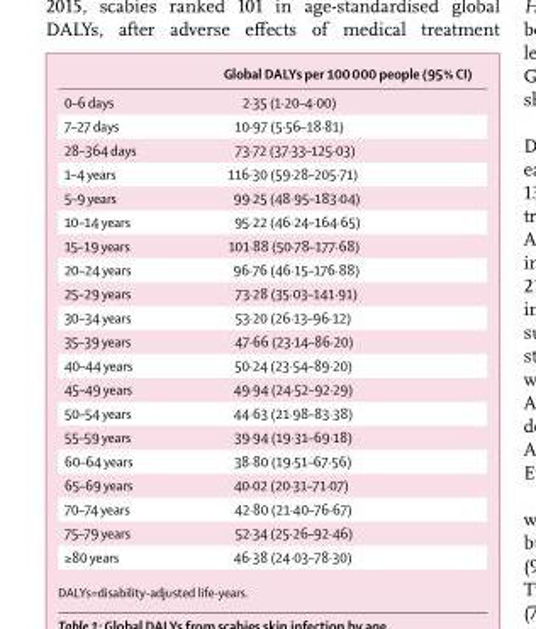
<table><thead><tr><td></td><td>Global DALYs per 100 000 people (95% CI)</td></tr></thead><tbody><tr><td>0–6 days</td><td>2·35 (1·20–4·00)</td></tr><tr><td>7–27 days</td><td>10·97 (5·56–18·81)</td></tr><tr><td>28–364 days</td><td>73·72 (37·33–125·03)</td></tr><tr><td>1–4 years</td><td>116·30 (59·28–205·71)</td></tr><tr><td>5–9 years</td><td>99·25 (48·95–183·04)</td></tr><tr><td>10–14 years</td><td>95·22 (46·24–164·65)</td></tr><tr><td>15–19 years</td><td>101·88 (50·78–177·68)</td></tr><tr><td>20–24 years</td><td>96·76 (46·15–176·88)</td></tr><tr><td>25–29 years</td><td>73·28 (35·03–141·91)</td></tr><tr><td>30–34 years</td><td>53·20 (26·13–96·12)</td></tr><tr><td>35–39 years</td><td>47·66 (23·14–86·20)</td></tr><tr><td>40–44 years</td><td>50·24 (23·54–89·20)</td></tr><tr><td>45–49 years</td><td>49·94 (24·52–92·29)</td></tr><tr><td>50–54 years</td><td>44·63 (21·98–83·38)</td></tr><tr><td>55–59 years</td><td>39·94 (19·31–69·18)</td></tr><tr><td>60–64 years</td><td>38·80 (19·51–67·56)</td></tr><tr><td>65–69 years</td><td>40·02 (20·31–71·07)</td></tr><tr><td>70–74 years</td><td>42·80 (21·40–76·67)</td></tr><tr><td>75–79 years</td><td>52·34 (25·26–92·46)</td></tr><tr><td>≥80 years</td><td>46·38 (24·03–78·30)</td></tr></tbody></table>